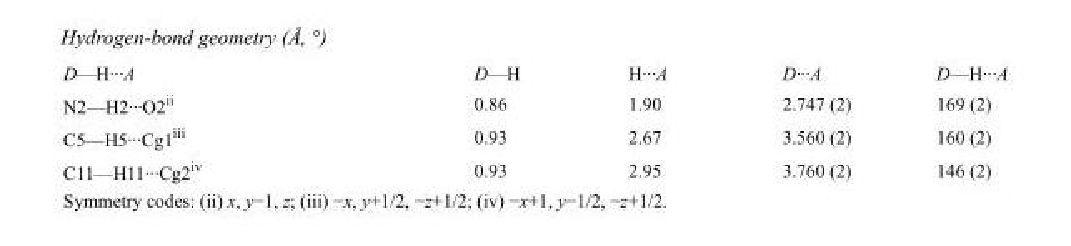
<table><tbody><tr><td>D—H···A</td><td>D—H</td><td>H···A</td><td>D···A</td><td>D—H···A</td></tr><tr><td>N2—H2···O2<sup>ii</sup></td><td>0.86</td><td>1.90</td><td>2.747 (2)</td><td>169 (2)</td></tr><tr><td>C5—H5···Cg1<sup>iii</sup></td><td>0.93</td><td>2.67</td><td>3.560 (2)</td><td>160 (2)</td></tr><tr><td>C11—H11···Cg2<sup>iv</sup></td><td>0.93</td><td>2.95</td><td>3.760 (2)</td><td>146 (2)</td></tr></tbody></table>